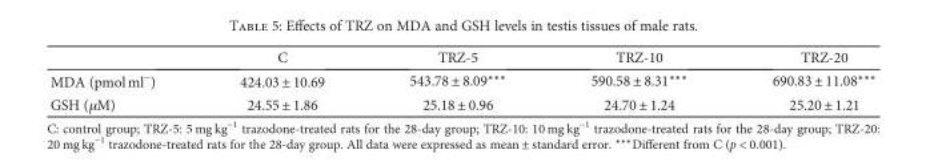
<table><thead><tr><td></td><td>C</td><td>TRZ-5</td><td>TRZ-10</td><td>TRZ-20</td></tr></thead><tbody><tr><td>MDA (pmol ml<sup>−</sup>)</td><td>424.03 ± 10.69</td><td>543.78 ± 8.09∗∗∗</td><td>590.58 ± 8.31∗∗∗</td><td>690.83 ± 11.08∗∗∗</td></tr><tr><td>GSH (μM)</td><td>24.55 ± 1.86</td><td>25.18 ± 0.96</td><td>24.70 ± 1.24</td><td>25.20 ± 1.21</td></tr></tbody></table>